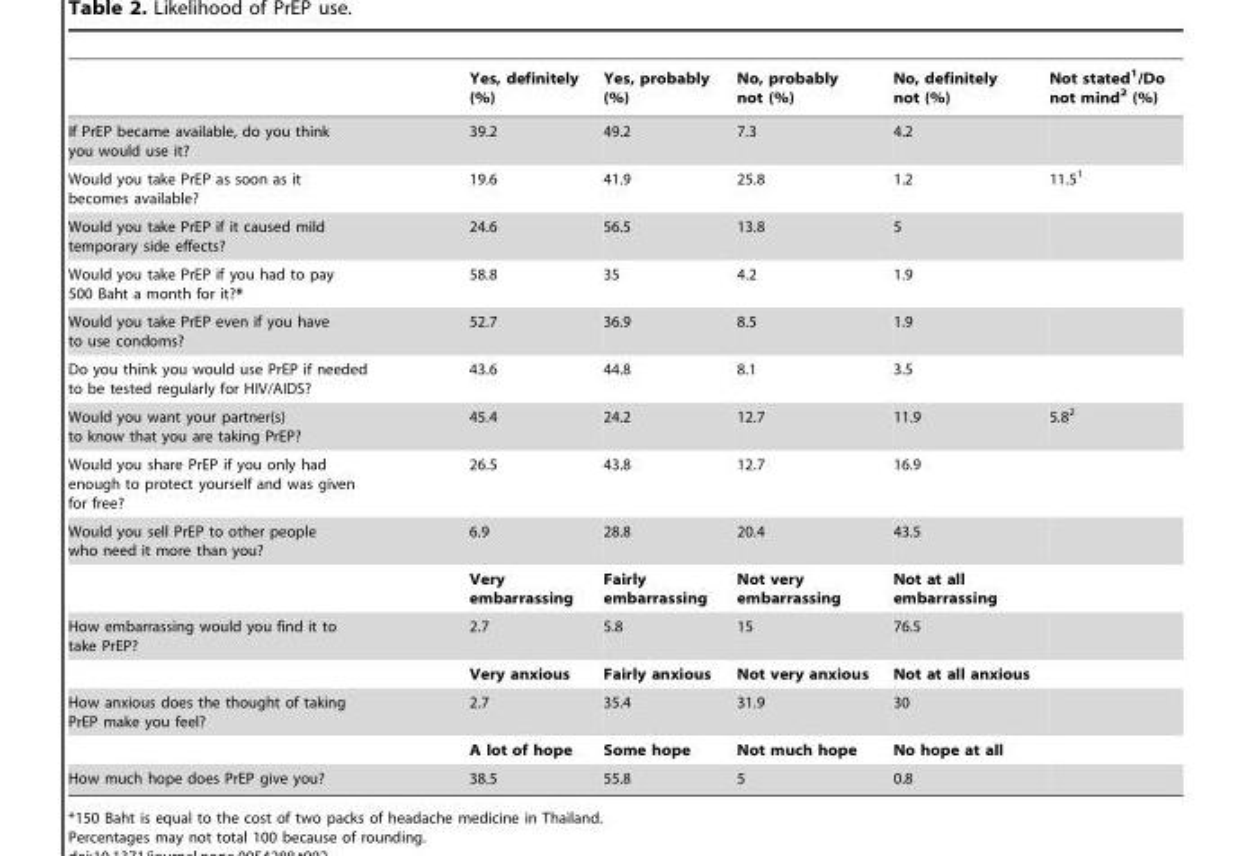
<table><thead><tr><td></td><td>Yes, definitely (%)</td><td>Yes, probably (%)</td><td>No, probably not (%)</td><td>No, definitely not (%)</td><td>Not stated<sup>1</sup>/Do not mind<sup>2</sup> (%)</td></tr></thead><tbody><tr><td>If PrEP became available, do you think you would use it?</td><td>39.2</td><td>49.2</td><td>7.3</td><td>4.2</td><td></td></tr><tr><td>Would you take PrEP as soon as it becomes available?</td><td>19.6</td><td>41.9</td><td>25.8</td><td>1.2</td><td>11.5<sup>1</sup></td></tr><tr><td>Would you take PrEP if it caused mild temporary side effects?</td><td>24.6</td><td>56.5</td><td>13.8</td><td>5</td><td></td></tr><tr><td>Would you take PrEP if you had to pay 500 Baht a month for it?*</td><td>58.8</td><td>35</td><td>4.2</td><td>1.9</td><td></td></tr><tr><td>Would you take PrEP even if you have to use condoms?</td><td>52.7</td><td>36.9</td><td>8.5</td><td>1.9</td><td></td></tr><tr><td>Do you think you would use PrEP if needed to be tested regularly for HIV/AIDS?</td><td>43.6</td><td>44.8</td><td>8.1</td><td>3.5</td><td></td></tr><tr><td>Would you want your partner(s) to know that you are taking PrEP?</td><td>45.4</td><td>24.2</td><td>12.7</td><td>11.9</td><td>5.8<sup>2</sup></td></tr><tr><td>Would you share PrEP if you only had enough to protect yourself and was given for free?</td><td>26.5</td><td>43.8</td><td>12.7</td><td>16.9</td><td></td></tr><tr><td rowspan="2">Would you sell PrEP to other people who need it more than you?</td><td>6.9</td><td>28.8</td><td>20.4</td><td>43.5</td><td></td></tr><tr><td>Very embarrassing</td><td>Fairly embarrassing</td><td>Not very embarrassing</td><td>Not at all embarrassing</td><td></td></tr><tr><td rowspan="2">How embarrassing would you find it to take PrEP?</td><td>2.7</td><td>5.8</td><td>15</td><td>76.5</td><td></td></tr><tr><td>Very anxious</td><td>Fairly anxious</td><td>Not very anxious</td><td>Not at all anxious</td><td></td></tr><tr><td rowspan="2">How anxious does the thought of taking PrEP make you feel?</td><td>2.7</td><td>35.4</td><td>31.9</td><td>30</td><td></td></tr><tr><td>A lot of hope</td><td>Some hope</td><td>Not much hope</td><td>No hope at all</td><td></td></tr><tr><td>How much hope does PrEP give you?</td><td>38.5</td><td>55.8</td><td>5</td><td>0.8</td><td></td></tr></tbody></table>